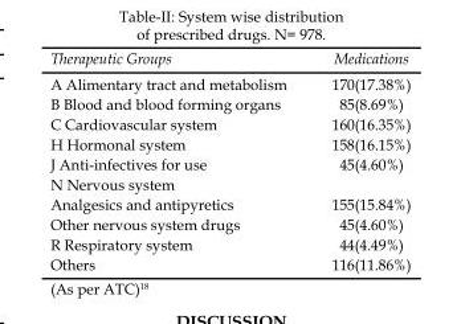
<table><thead><tr><td>Therapeutic Groups</td><td>Medications</td></tr></thead><tbody><tr><td>A Alimentary tract and metabolism</td><td>170(17.38%)</td></tr><tr><td>B Blood and blood forming organs</td><td>85(8.69%)</td></tr><tr><td>C Cardiovascular system</td><td>160(16.35%)</td></tr><tr><td>H Hormonal system</td><td>158(16.15%)</td></tr><tr><td>J Anti-infectives for use</td><td>45(4.60%)</td></tr><tr><td colspan="2">N Nervous system</td></tr><tr><td>Analgesics and antipyretics</td><td>155(15.84%)</td></tr><tr><td>Other nervous system drugs</td><td>45(4.60%)</td></tr><tr><td>R Respiratory system</td><td>44(4.49%)</td></tr><tr><td>Others</td><td>116(11.86%)</td></tr></tbody></table>